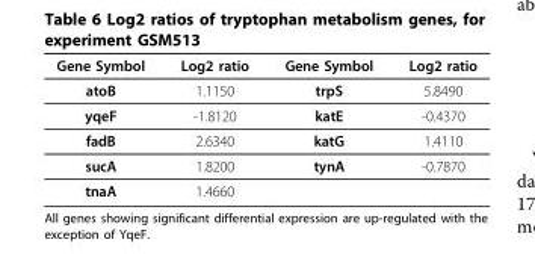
<table><thead><tr><td>Gene Symbol</td><td>Log2 ratio</td><td>Gene Symbol</td><td>Log2 ratio</td></tr></thead><tbody><tr><td>atoB</td><td>1.1150</td><td>trpS</td><td>5.8490</td></tr><tr><td>yqeF</td><td>-1.8120</td><td>katE</td><td>-0.4370</td></tr><tr><td>fadB</td><td>2.6340</td><td>katG</td><td>1.4110</td></tr><tr><td>sucA</td><td>1.8200</td><td>tynA</td><td>-0.7870</td></tr><tr><td>tnaA</td><td>1.4660</td><td></td><td></td></tr></tbody></table>